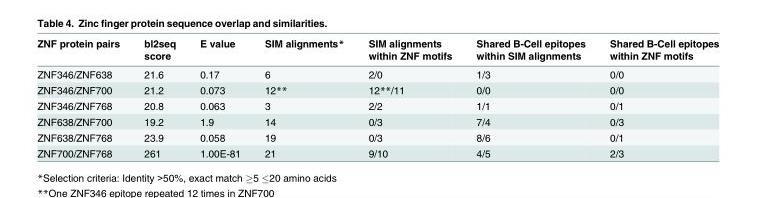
<table><thead><tr><td>ZNF protein pairs</td><td>bl2seq score</td><td>E value</td><td>SIM alignments*</td><td>SIM alignments within ZNF motifs</td><td>Shared B-Cell epitopes within SIM alignments</td><td>Shared B-Cell epitopes within ZNF motifs</td></tr></thead><tbody><tr><td>ZNF346/ZNF638</td><td>21.6</td><td>0.17</td><td>6</td><td>2/0</td><td>1/3</td><td>0/0</td></tr><tr><td>ZNF346/ZNF700</td><td>21.2</td><td>0.073</td><td>12**</td><td>12**/11</td><td>0/0</td><td>0/0</td></tr><tr><td>ZNF346/ZNF768</td><td>20.8</td><td>0.063</td><td>3</td><td>2/2</td><td>1/1</td><td>0/1</td></tr><tr><td>ZNF638/ZNF700</td><td>19.2</td><td>1.9</td><td>14</td><td>0/3</td><td>7/4</td><td>0/3</td></tr><tr><td>ZNF638/ZNF768</td><td>23.9</td><td>0.058</td><td>19</td><td>0/3</td><td>8/6</td><td>0/1</td></tr><tr><td>ZNF700/ZNF768</td><td>261</td><td>1.00E-81</td><td>21</td><td>9/10</td><td>4/5</td><td>2/3</td></tr></tbody></table>